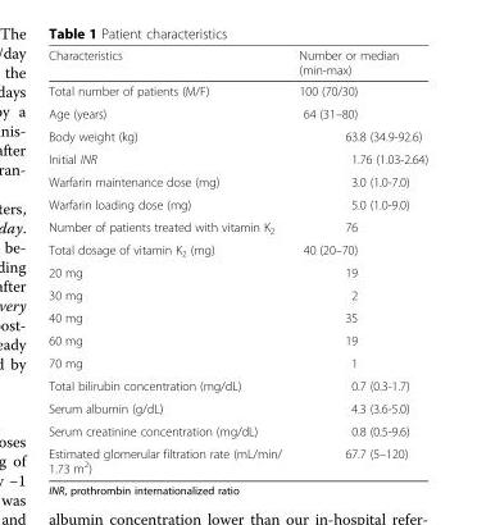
<table><thead><tr><td>Characteristics</td><td>Number or median (min-max)</td></tr></thead><tbody><tr><td>Total number of patients (M/F)</td><td>100 (70/30)</td></tr><tr><td>Age (years)</td><td>64 (31–80)</td></tr><tr><td>Body weight (kg)</td><td>63.8 (34.9-92.6)</td></tr><tr><td>Initial INR</td><td>1.76 (1.03-2.64)</td></tr><tr><td>Warfarin maintenance dose (mg)</td><td>3.0 (1.0-7.0)</td></tr><tr><td>Warfarin loading dose (mg)</td><td>5.0 (1.0-9.0)</td></tr><tr><td>Number of patients treated with vitamin K<sub>2</sub></td><td>76</td></tr><tr><td>Total dosage of vitamin K<sub>2</sub> (mg)</td><td>40 (20–70)</td></tr><tr><td>20 mg</td><td>19</td></tr><tr><td>30 mg</td><td>2</td></tr><tr><td>40 mg</td><td>35</td></tr><tr><td>60 mg</td><td>19</td></tr><tr><td>70 mg</td><td>1</td></tr><tr><td>Total bilirubin concentration (mg/dL)</td><td>0.7 (0.3-1.7)</td></tr><tr><td>Serum albumin (g/dL)</td><td>4.3 (3.6-5.0)</td></tr><tr><td>Serum creatinine concentration (mg/dL)</td><td>0.8 (0.5-9.6)</td></tr><tr><td>Estimated glomerular filtration rate (mL/min/ 1.73 m<sup>2</sup>)</td><td>67.7 (5–120)</td></tr></tbody></table>